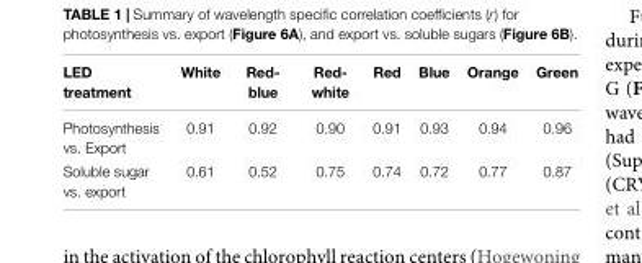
<table><thead><tr><td>LED treatment</td><td>White</td><td>Red- blue</td><td>Red- white</td><td>Red</td><td>Blue</td><td>Orange</td><td>Green</td></tr></thead><tbody><tr><td>Photosynthesis vs. Export</td><td>0.91</td><td>0.92</td><td>0.90</td><td>0.91</td><td>0.93</td><td>0.94</td><td>0.96</td></tr><tr><td>Soluble sugar vs. export</td><td>0.61</td><td>0.52</td><td>0.75</td><td>0.74</td><td>0.72</td><td>0.77</td><td>0.87</td></tr></tbody></table>